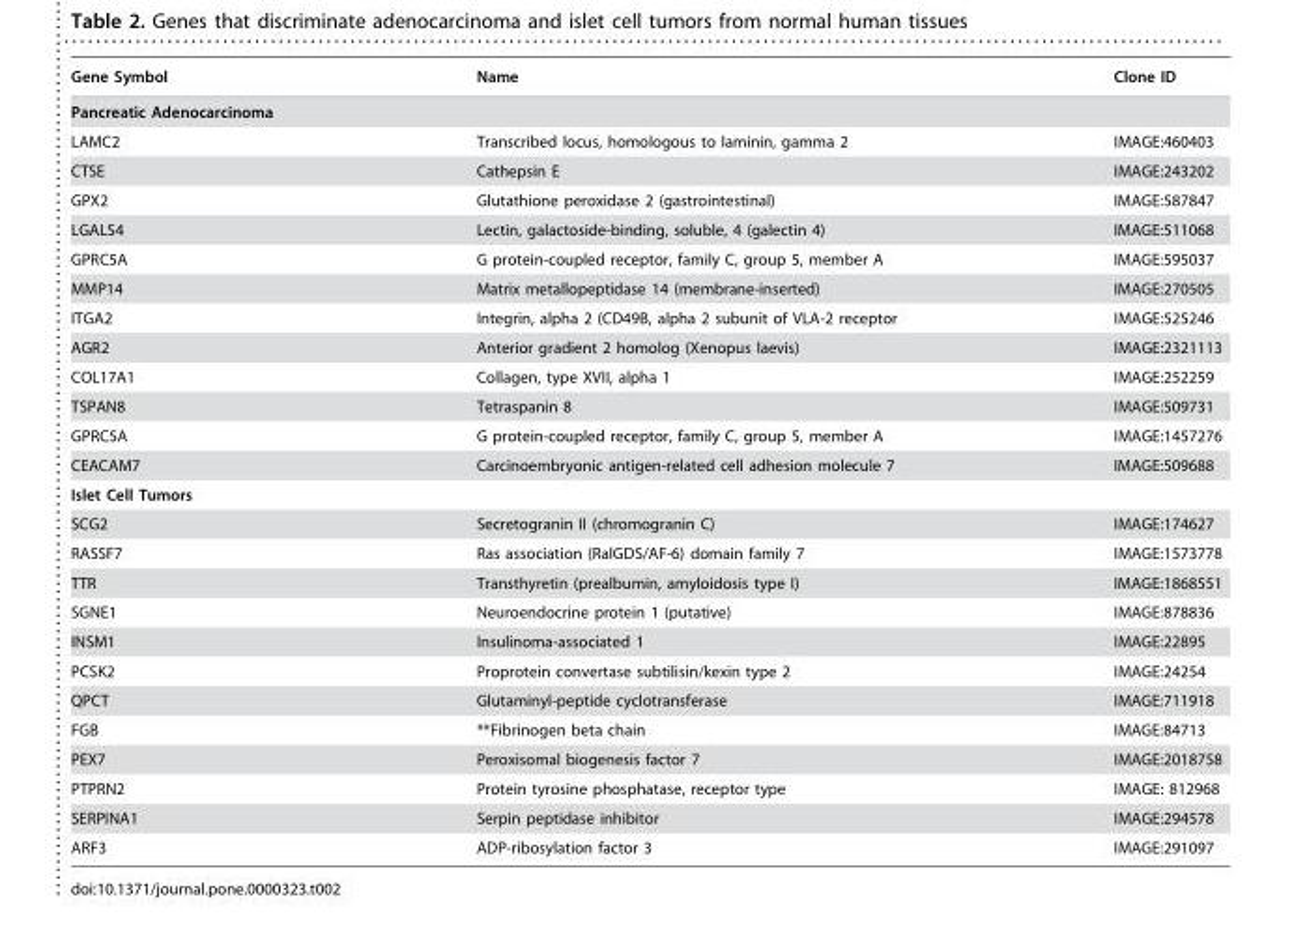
<table><thead><tr><td>Gene Symbol</td><td>Name</td><td>Clone ID</td></tr></thead><tbody><tr><td colspan="3">Pancreatic Adenocarcinoma</td></tr><tr><td>LAMC2</td><td>Transcribed locus, homologous to laminin, gamma 2</td><td>IMAGE:460403</td></tr><tr><td>CTSE</td><td>Cathepsin E</td><td>IMAGE:243202</td></tr><tr><td>GPX2</td><td>Glutathione peroxidase 2 (gastrointestinal)</td><td>IMAGE:587847</td></tr><tr><td>LGALS4</td><td>Lectin, galactoside-binding, soluble, 4 (galectin 4)</td><td>IMAGE:511068</td></tr><tr><td>GPRC5A</td><td>G protein-coupled receptor, family C, group 5, member A</td><td>IMAGE:595037</td></tr><tr><td>MMP14</td><td>Matrix metallopeptidase 14 (membrane-inserted)</td><td>IMAGE:270505</td></tr><tr><td>ITGA2</td><td>Integrin, alpha 2 (CD49B, alpha 2 subunit of VLA-2 receptor</td><td>IMAGE:525246</td></tr><tr><td>AGR2</td><td>Anterior gradient 2 homolog (Xenopus laevis)</td><td>IMAGE:2321113</td></tr><tr><td>COL17A1</td><td>Collagen, type XVII, alpha 1</td><td>IMAGE:252259</td></tr><tr><td>TSPAN8</td><td>Tetraspanin 8</td><td>IMAGE:509731</td></tr><tr><td>GPRC5A</td><td>G protein-coupled receptor, family C, group 5, member A</td><td>IMAGE:1457276</td></tr><tr><td>CEACAM7</td><td>Carcinoembryonic antigen-related cell adhesion molecule 7</td><td>IMAGE:509688</td></tr><tr><td colspan="3">Islet Cell Tumors</td></tr><tr><td>SCG2</td><td>Secretogranin II (chromogranin C)</td><td>IMAGE:174627</td></tr><tr><td>RASSF7</td><td>Ras association (RalGDS/AF-6) domain family 7</td><td>IMAGE:1573778</td></tr><tr><td>TTR</td><td>Transthyretin (prealbumin, amyloidosis type I)</td><td>IMAGE:1868551</td></tr><tr><td>SGNE1</td><td>Neuroendocrine protein 1 (putative)</td><td>IMAGE:878836</td></tr><tr><td>INSM1</td><td>Insulinoma-associated 1</td><td>IMAGE:22895</td></tr><tr><td>PCSK2</td><td>Proprotein convertase subtilisin/kexin type 2</td><td>IMAGE:24254</td></tr><tr><td>QPCT</td><td>Glutaminyl-peptide cyclotransferase</td><td>IMAGE:711918</td></tr><tr><td>FGB</td><td>**Fibrinogen beta chain</td><td>IMAGE:84713</td></tr><tr><td>PEX7</td><td>Peroxisomal biogenesis factor 7</td><td>IMAGE:2018758</td></tr><tr><td>PTPRN2</td><td>Protein tyrosine phosphatase, receptor type</td><td>IMAGE: 812968</td></tr><tr><td>SERPINA1</td><td>Serpin peptidase inhibitor</td><td>IMAGE:294578</td></tr><tr><td>ARF3</td><td>ADP-ribosylation factor 3</td><td>IMAGE:291097</td></tr></tbody></table>